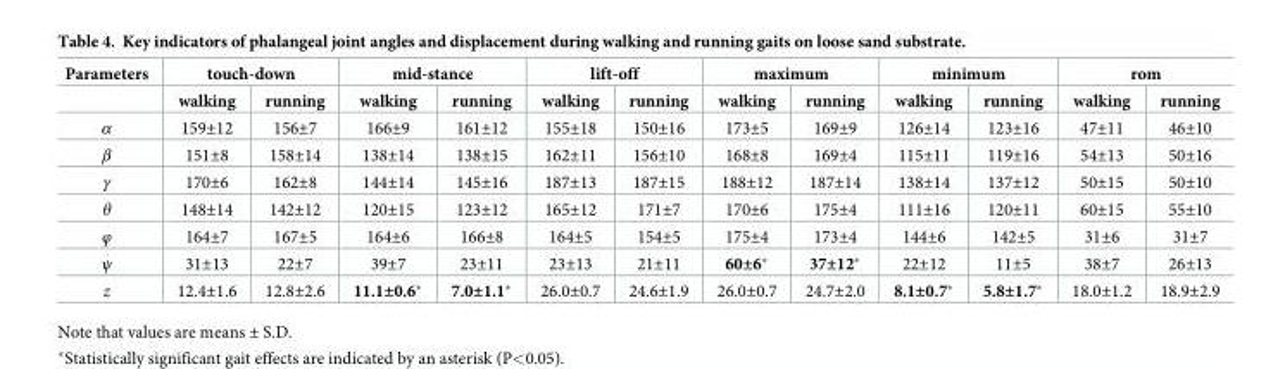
<table><thead><tr><td rowspan="2">Parameters</td><td colspan="2">touch-down</td><td colspan="2">mid-stance</td><td colspan="2">lift-off</td><td colspan="2">maximum</td><td colspan="2">minimum</td><td colspan="2">rom</td></tr><tr><td>walking</td><td>running</td><td>walking</td><td>running</td><td>walking</td><td>running</td><td>walking</td><td>running</td><td>walking</td><td>running</td><td>walking</td><td>running</td></tr></thead><tbody><tr><td>α</td><td>159±12</td><td>156±7</td><td>166±9</td><td>161±12</td><td>155±18</td><td>150±16</td><td>173±5</td><td>169±9</td><td>126±14</td><td>123±16</td><td>47±11</td><td>46±10</td></tr><tr><td>β</td><td>151±8</td><td>158±14</td><td>138±14</td><td>138±15</td><td>162±11</td><td>156±10</td><td>168±8</td><td>169±4</td><td>115±11</td><td>119±16</td><td>54±13</td><td>50±16</td></tr><tr><td>γ</td><td>170±6</td><td>162±8</td><td>144±14</td><td>145±16</td><td>187±13</td><td>187±15</td><td>188±12</td><td>187±14</td><td>138±14</td><td>137±12</td><td>50±15</td><td>50±10</td></tr><tr><td>θ</td><td>148±14</td><td>142±12</td><td>120±15</td><td>123±12</td><td>165±12</td><td>171±7</td><td>170±6</td><td>175±4</td><td>111±16</td><td>120±11</td><td>60±15</td><td>55±10</td></tr><tr><td>φ</td><td>164±7</td><td>167±5</td><td>164±6</td><td>166±8</td><td>164±5</td><td>154±5</td><td>175±4</td><td>173±4</td><td>144±6</td><td>142±5</td><td>31±6</td><td>31±7</td></tr><tr><td>ψ</td><td>31±13</td><td>22±7</td><td>39±7</td><td>23±11</td><td>23±13</td><td>21±11</td><td>60±6*</td><td>37±12*</td><td>22±12</td><td>11±5</td><td>38±7</td><td>26±13</td></tr><tr><td>z</td><td>12.4±1.6</td><td>12.8±2.6</td><td>11.1±0.6*</td><td>7.0±1.1*</td><td>26.0±0.7</td><td>24.6±1.9</td><td>26.0±0.7</td><td>24.7±2.0</td><td>8.1±0.7*</td><td>5.8±1.7*</td><td>18.0±1.2</td><td>18.9±2.9</td></tr></tbody></table>